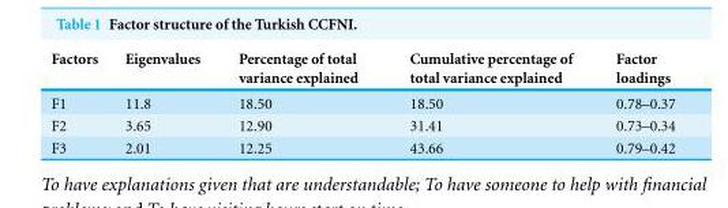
<table><thead><tr><td>Factors</td><td>Eigenvalues</td><td>Percentage of total variance explained</td><td>Cumulative percentage of total variance explained</td><td>Factor loadings</td></tr></thead><tbody><tr><td>F1</td><td>11.8</td><td>18.50</td><td>18.50</td><td>0.78–0.37</td></tr><tr><td>F2</td><td>3.65</td><td>12.90</td><td>31.41</td><td>0.73–0.34</td></tr><tr><td>F3</td><td>2.01</td><td>12.25</td><td>43.66</td><td>0.79–0.42</td></tr></tbody></table>